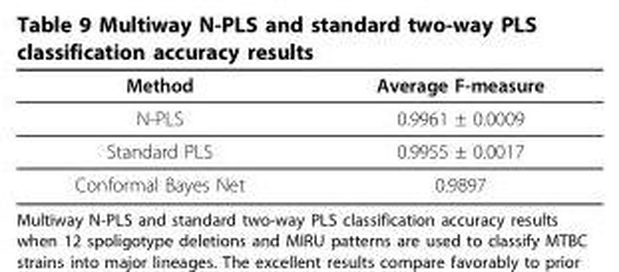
<table><thead><tr><td>Method</td><td>Average F-measure</td></tr></thead><tbody><tr><td>N-PLS</td><td>0.9961 ± 0.0009</td></tr><tr><td>Standard PLS</td><td>0.9955 ± 0.0017</td></tr><tr><td>Conformal Bayes Net</td><td>0.9897</td></tr></tbody></table>